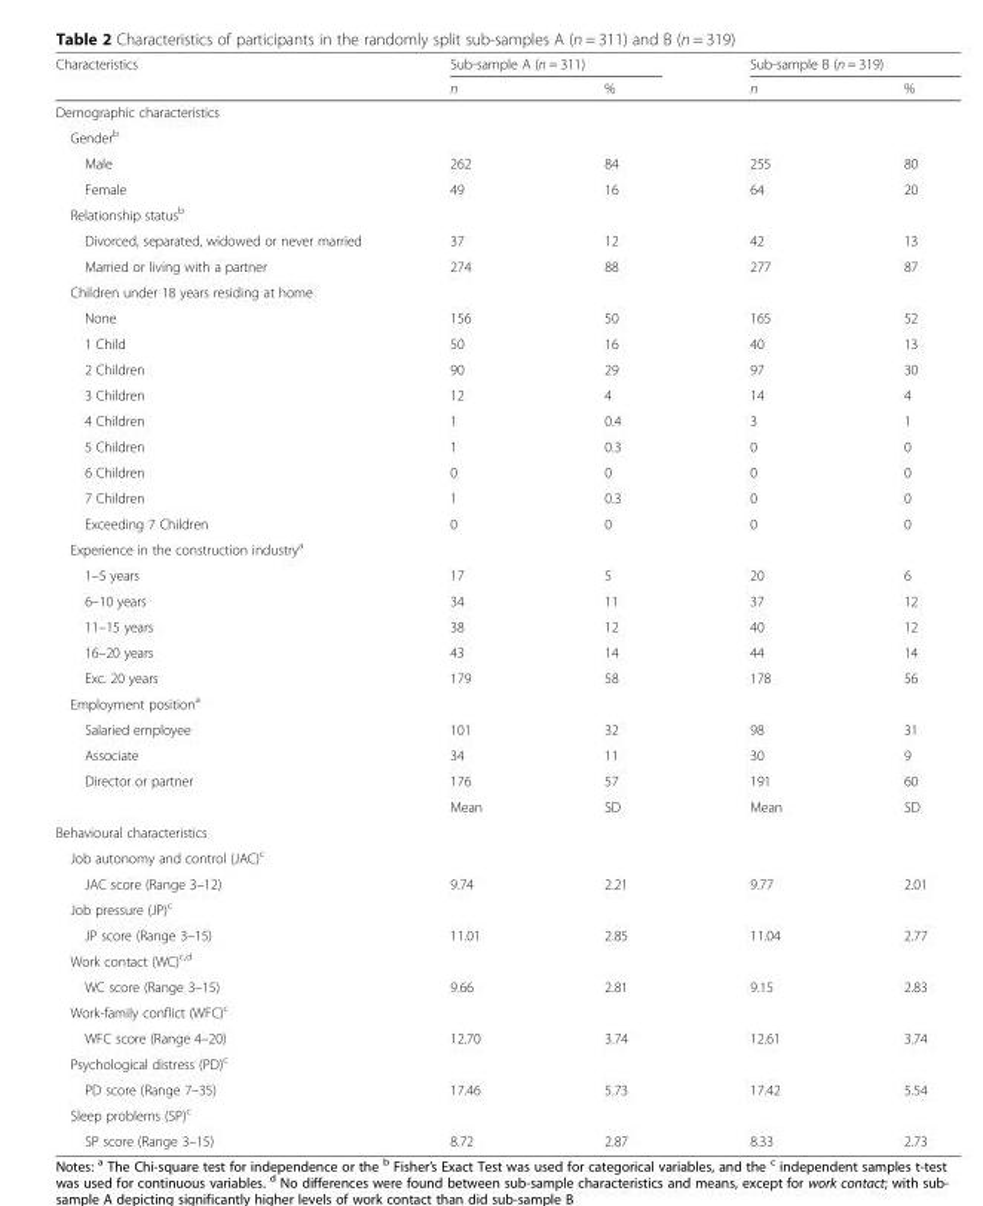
<table><thead><tr><td rowspan="2">Characteristics</td><td colspan="2">Sub-sample A (n = 311)</td><td colspan="2">Sub-sample B (n = 319)</td></tr><tr><td>n</td><td>%</td><td>n</td><td>%</td></tr></thead><tbody><tr><td colspan="5">Demographic characteristics</td></tr><tr><td colspan="5">Gender<sup>b</sup></td></tr><tr><td>Male</td><td>262</td><td>84</td><td>255</td><td>80</td></tr><tr><td>Female</td><td>49</td><td>16</td><td>64</td><td>20</td></tr><tr><td colspan="5">Relationship status<sup>b</sup></td></tr><tr><td>Divorced, separated, widowed or never married</td><td>37</td><td>12</td><td>42</td><td>13</td></tr><tr><td>Married or living with a partner</td><td>274</td><td>88</td><td>277</td><td>87</td></tr><tr><td colspan="5">Children under 18 years residing at home</td></tr><tr><td>None</td><td>156</td><td>50</td><td>165</td><td>52</td></tr><tr><td>1 Child</td><td>50</td><td>16</td><td>40</td><td>13</td></tr><tr><td>2 Children</td><td>90</td><td>29</td><td>97</td><td>30</td></tr><tr><td>3 Children</td><td>12</td><td>4</td><td>14</td><td>4</td></tr><tr><td>4 Children</td><td>1</td><td>0.4</td><td>3</td><td>1</td></tr><tr><td>5 Children</td><td>1</td><td>0.3</td><td>0</td><td>0</td></tr><tr><td>6 Children</td><td>0</td><td>0</td><td>0</td><td>0</td></tr><tr><td>7 Children</td><td>1</td><td>0.3</td><td>0</td><td>0</td></tr><tr><td>Exceeding 7 Children</td><td>0</td><td>0</td><td>0</td><td>0</td></tr><tr><td colspan="5">Experience in the construction industry<sup>a</sup></td></tr><tr><td>1–5 years</td><td>17</td><td>5</td><td>20</td><td>6</td></tr><tr><td>6–10 years</td><td>34</td><td>11</td><td>37</td><td>12</td></tr><tr><td>11–15 years</td><td>38</td><td>12</td><td>40</td><td>12</td></tr><tr><td>16–20 years</td><td>43</td><td>14</td><td>44</td><td>14</td></tr><tr><td>Exc. 20 years</td><td>179</td><td>58</td><td>178</td><td>56</td></tr><tr><td colspan="5">Employment position<sup>a</sup></td></tr><tr><td>Salaried employee</td><td>101</td><td>32</td><td>98</td><td>31</td></tr><tr><td>Associate</td><td>34</td><td>11</td><td>30</td><td>9</td></tr><tr><td rowspan="2">Director or partner</td><td>176</td><td>57</td><td>191</td><td>60</td></tr><tr><td>Mean</td><td>SD</td><td>Mean</td><td>SD</td></tr><tr><td colspan="5">Behavioural characteristics</td></tr><tr><td colspan="5">Job autonomy and control (JAC)<sup>c</sup></td></tr><tr><td>JAC score (Range 3–12)</td><td>9.74</td><td>2.21</td><td>9.77</td><td>2.01</td></tr><tr><td colspan="5">Job pressure (JP)<sup>c</sup></td></tr><tr><td>JP score (Range 3–15)</td><td>11.01</td><td>2.85</td><td>11.04</td><td>2.77</td></tr><tr><td colspan="5">Work contact (WC)<sup>c,d</sup></td></tr><tr><td>WC score (Range 3–15)</td><td>9.66</td><td>2.81</td><td>9.15</td><td>2.83</td></tr><tr><td colspan="5">Work-family conflict (WFC)<sup>c</sup></td></tr><tr><td>WFC score (Range 4–20)</td><td>12.70</td><td>3.74</td><td>12.61</td><td>3.74</td></tr><tr><td colspan="5">Psychological distress (PD)<sup>c</sup></td></tr><tr><td>PD score (Range 7–35)</td><td>17.46</td><td>5.73</td><td>17.42</td><td>5.54</td></tr><tr><td colspan="5">Sleep problems (SP)<sup>c</sup></td></tr><tr><td>SP score (Range 3–15)</td><td>8.72</td><td>2.87</td><td>8.33</td><td>2.73</td></tr></tbody></table>